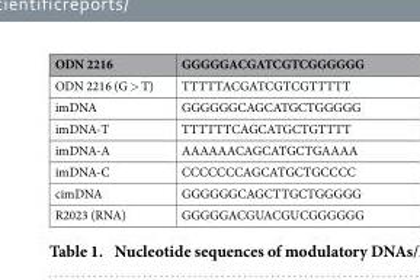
<table><thead><tr><td>ODN 2216</td><td>GGGGGACGATCGTCGGGGGG</td></tr></thead><tbody><tr><td>ODN 2216 (G &gt; T)</td><td>TTTTTACGATCGTCGTTTTT</td></tr><tr><td>imDNA</td><td>GGGGGGCAGCATGCTGGGGG</td></tr><tr><td>imDNA-T</td><td>TTTTTTCAGCATGCTGTTTT</td></tr><tr><td>imDNA-A</td><td>AAAAAACAGCATGCTGAAAA</td></tr><tr><td>imDNA-C</td><td>CCCCCCCAGCATGCTGCCCC</td></tr><tr><td>cimDNA</td><td>GGGGGGCAGCTTGCTGGGGG</td></tr><tr><td>R2023 (RNA)</td><td>GGGGGACGUACGUCGGGGGG</td></tr></tbody></table>